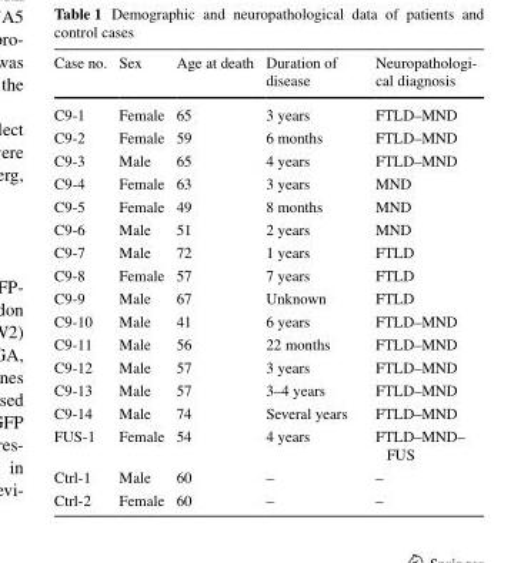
<table><thead><tr><td>Case no.</td><td>Sex</td><td>Age at death</td><td>Duration of disease</td><td>Neuropathologi- cal diagnosis</td></tr></thead><tbody><tr><td>C9-1</td><td>Female</td><td>65</td><td>3 years</td><td>FTLD–MND</td></tr><tr><td>C9-2</td><td>Female</td><td>59</td><td>6 months</td><td>FTLD–MND</td></tr><tr><td>C9-3</td><td>Male</td><td>65</td><td>4 years</td><td>FTLD–MND</td></tr><tr><td>C9-4</td><td>Female</td><td>63</td><td>3 years</td><td>MND</td></tr><tr><td>C9-5</td><td>Female</td><td>49</td><td>8 months</td><td>MND</td></tr><tr><td>C9-6</td><td>Male</td><td>51</td><td>2 years</td><td>MND</td></tr><tr><td>C9-7</td><td>Male</td><td>72</td><td>1 years</td><td>FTLD</td></tr><tr><td>C9-8</td><td>Female</td><td>57</td><td>7 years</td><td>FTLD</td></tr><tr><td>C9-9</td><td>Male</td><td>67</td><td>Unknown</td><td>FTLD</td></tr><tr><td>C9-10</td><td>Male</td><td>41</td><td>6 years</td><td>FTLD–MND</td></tr><tr><td>C9-11</td><td>Male</td><td>56</td><td>22 months</td><td>FTLD–MND</td></tr><tr><td>C9-12</td><td>Male</td><td>57</td><td>3 years</td><td>FTLD–MND</td></tr><tr><td>C9-13</td><td>Male</td><td>57</td><td>3–4 years</td><td>FTLD–MND</td></tr><tr><td>C9-14</td><td>Male</td><td>74</td><td>Several years</td><td>FTLD–MND</td></tr><tr><td>FUS-1</td><td>Female</td><td>54</td><td>4 years</td><td>FTLD–MND– FUS</td></tr><tr><td>Ctrl-1</td><td>Male</td><td>60</td><td>–</td><td>–</td></tr><tr><td>Ctrl-2</td><td>Female</td><td>60</td><td>–</td><td>–</td></tr></tbody></table>